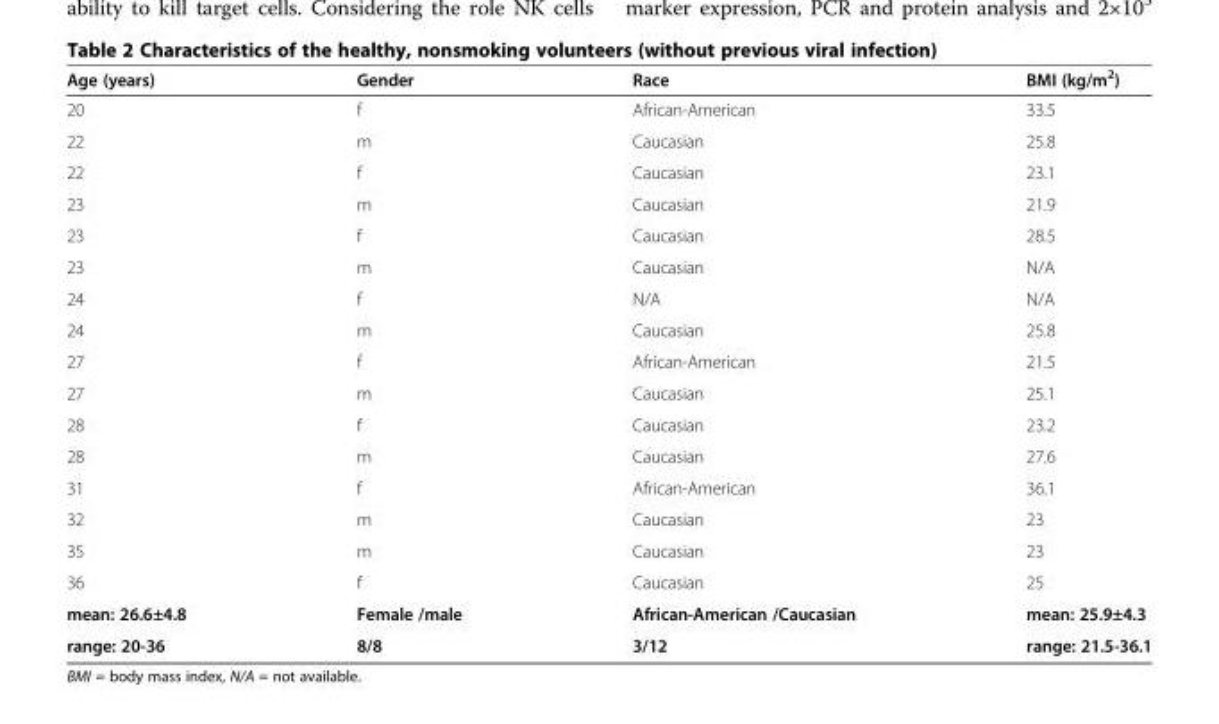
<table><thead><tr><td>Age (years)</td><td>Gender</td><td>Race</td><td>BMI (kg/m<sup>2</sup>)</td></tr></thead><tbody><tr><td>20</td><td>f</td><td>African-American</td><td>33.5</td></tr><tr><td>22</td><td>m</td><td>Caucasian</td><td>25.8</td></tr><tr><td>22</td><td>f</td><td>Caucasian</td><td>23.1</td></tr><tr><td>23</td><td>m</td><td>Caucasian</td><td>21.9</td></tr><tr><td>23</td><td>f</td><td>Caucasian</td><td>28.5</td></tr><tr><td>23</td><td>m</td><td>Caucasian</td><td>N/A</td></tr><tr><td>24</td><td>f</td><td>N/A</td><td>N/A</td></tr><tr><td>24</td><td>m</td><td>Caucasian</td><td>25.8</td></tr><tr><td>27</td><td>f</td><td>African-American</td><td>21.5</td></tr><tr><td>27</td><td>m</td><td>Caucasian</td><td>25.1</td></tr><tr><td>28</td><td>f</td><td>Caucasian</td><td>23.2</td></tr><tr><td>28</td><td>m</td><td>Caucasian</td><td>27.6</td></tr><tr><td>31</td><td>f</td><td>African-American</td><td>36.1</td></tr><tr><td>32</td><td>m</td><td>Caucasian</td><td>23</td></tr><tr><td>35</td><td>m</td><td>Caucasian</td><td>23</td></tr><tr><td>36</td><td>f</td><td>Caucasian</td><td>25</td></tr><tr><td>mean: 26.6±4.8</td><td>Female /male</td><td>African-American /Caucasian</td><td>mean: 25.9±4.3</td></tr><tr><td>range: 20-36</td><td>8/8</td><td>3/12</td><td>range: 21.5-36.1</td></tr></tbody></table>